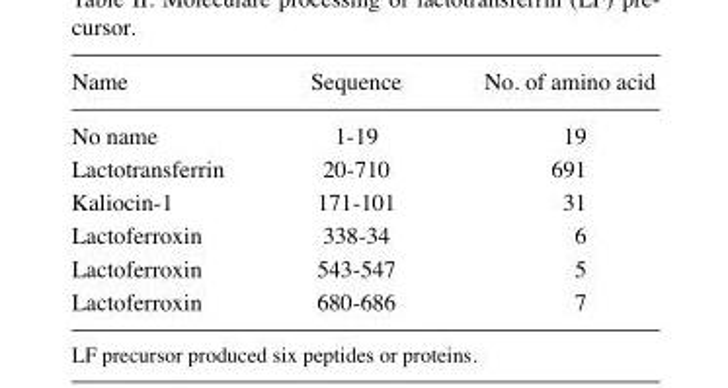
<table><thead><tr><td>Name</td><td>Sequence</td><td>No. of amino acid</td></tr></thead><tbody><tr><td>No name</td><td>1-19</td><td>19</td></tr><tr><td>Lactotransferrin</td><td>20-710</td><td>691</td></tr><tr><td>Kaliocin-1</td><td>171-101</td><td>31</td></tr><tr><td>Lactoferroxin</td><td>338-34</td><td>6</td></tr><tr><td>Lactoferroxin</td><td>543-547</td><td>5</td></tr><tr><td>Lactoferroxin</td><td>680-686</td><td>7</td></tr></tbody></table>